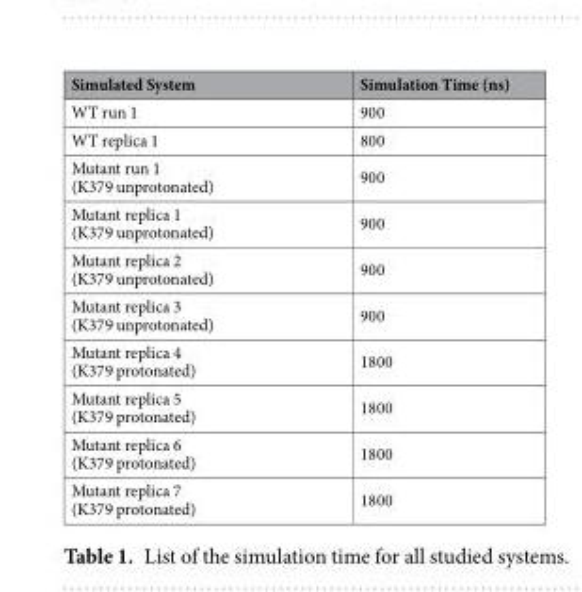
<table><thead><tr><td>Simulated System</td><td>Simulation Time (ns)</td></tr></thead><tbody><tr><td>WT run 1</td><td>900</td></tr><tr><td>WT replica 1</td><td>800</td></tr><tr><td>Mutant run 1 (K379 unprotonated)</td><td>900</td></tr><tr><td>Mutant replica 1 (K379 unprotonated)</td><td>900</td></tr><tr><td>Mutant replica 2 (K379 unprotonated)</td><td>900</td></tr><tr><td>Mutant replica 3 (K379 unprotonated)</td><td>900</td></tr><tr><td>Mutant replica 4 (K379 protonated)</td><td>1800</td></tr><tr><td>Mutant replica 5 (K379 protonated)</td><td>1800</td></tr><tr><td>Mutant replica 6 (K379 protonated)</td><td>1800</td></tr><tr><td>Mutant replica 7 (K379 protonated)</td><td>1800</td></tr></tbody></table>